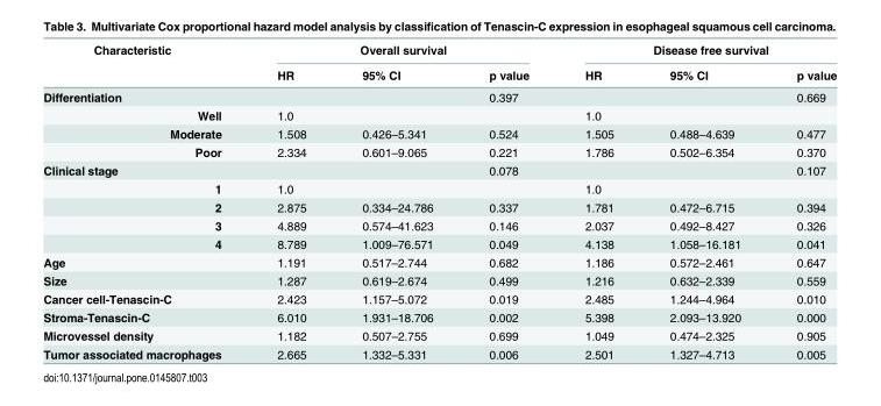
<table><thead><tr><td rowspan="2">Characteristic</td><td colspan="3">Overall survival</td><td colspan="3">Disease free survival</td></tr><tr><td>HR</td><td>95% CI</td><td>p value</td><td>HR</td><td>95% CI</td><td>p value</td></tr></thead><tbody><tr><td>Differentiation</td><td></td><td></td><td>0.397</td><td></td><td></td><td>0.669</td></tr><tr><td>Well</td><td>1.0</td><td></td><td></td><td>1.0</td><td></td><td></td></tr><tr><td>Moderate</td><td>1.508</td><td>0.426–5.341</td><td>0.524</td><td>1.505</td><td>0.488–4.639</td><td>0.477</td></tr><tr><td>Poor</td><td>2.334</td><td>0.601–9.065</td><td>0.221</td><td>1.786</td><td>0.502–6.354</td><td>0.370</td></tr><tr><td>Clinical stage</td><td></td><td></td><td>0.078</td><td></td><td></td><td>0.107</td></tr><tr><td>1</td><td>1.0</td><td></td><td></td><td>1.0</td><td></td><td></td></tr><tr><td>2</td><td>2.875</td><td>0.334–24.786</td><td>0.337</td><td>1.781</td><td>0.472–6.715</td><td>0.394</td></tr><tr><td>3</td><td>4.889</td><td>0.574–41.623</td><td>0.146</td><td>2.037</td><td>0.492–8.427</td><td>0.326</td></tr><tr><td>4</td><td>8.789</td><td>1.009–76.571</td><td>0.049</td><td>4.138</td><td>1.058–16.181</td><td>0.041</td></tr><tr><td>Age</td><td>1.191</td><td>0.517–2.744</td><td>0.682</td><td>1.186</td><td>0.572–2.461</td><td>0.647</td></tr><tr><td>Size</td><td>1.287</td><td>0.619–2.674</td><td>0.499</td><td>1.216</td><td>0.632–2.339</td><td>0.559</td></tr><tr><td>Cancer cell-Tenascin-C</td><td>2.423</td><td>1.157–5.072</td><td>0.019</td><td>2.485</td><td>1.244–4.964</td><td>0.010</td></tr><tr><td>Stroma-Tenascin-C</td><td>6.010</td><td>1.931–18.706</td><td>0.002</td><td>5.398</td><td>2.093–13.920</td><td>0.000</td></tr><tr><td>Microvessel density</td><td>1.182</td><td>0.507–2.755</td><td>0.699</td><td>1.049</td><td>0.474–2.325</td><td>0.905</td></tr><tr><td>Tumor associated macrophages</td><td>2.665</td><td>1.332–5.331</td><td>0.006</td><td>2.501</td><td>1.327–4.713</td><td>0.005</td></tr></tbody></table>